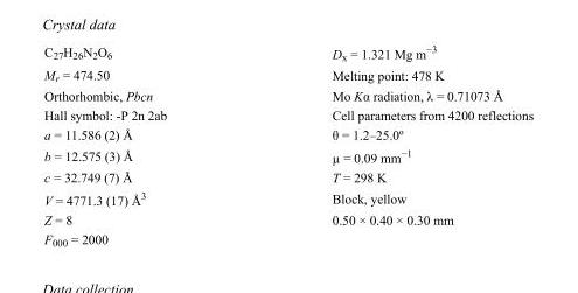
<table><tbody><tr><td>C<sub>27</sub>H<sub>26</sub>N<sub>2</sub>O<sub>6</sub></td><td>D<sub>x</sub> = 1.321 Mg m<sup>−3</sup></td></tr><tr><td>M<sub>r</sub> = 474.50</td><td>Melting point: 478 K</td></tr><tr><td>Orthorhombic, Pbcn</td><td>Mo Kα radiation, λ = 0.71073 Å</td></tr><tr><td>Hall symbol: -P 2n 2ab</td><td>Cell parameters from 4200 reflections</td></tr><tr><td>a = 11.586 (2) Å</td><td>θ = 1.2–25.0º</td></tr><tr><td>b = 12.575 (3) Å</td><td>µ = 0.09 mm<sup>−1</sup></td></tr><tr><td>c = 32.749 (7) Å</td><td>T = 298 K</td></tr><tr><td>V = 4771.3 (17) Å<sup>3</sup></td><td>Block, yellow</td></tr><tr><td>Z = 8</td><td>0.50 × 0.40 × 0.30 mm</td></tr><tr><td>F000 = 2000</td><td></td></tr></tbody></table>